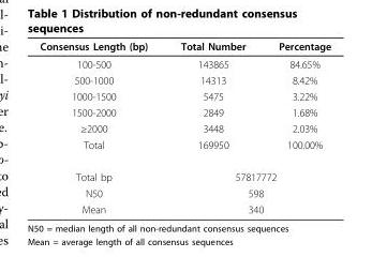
<table><thead><tr><td>Consensus Length (bp)</td><td>Total Number</td><td>Percentage</td></tr></thead><tbody><tr><td>100-500</td><td>143865</td><td>84.65%</td></tr><tr><td>500-1000</td><td>14313</td><td>8.42%</td></tr><tr><td>1000-1500</td><td>5475</td><td>3.22%</td></tr><tr><td>1500-2000</td><td>2849</td><td>1.68%</td></tr><tr><td>≥2000</td><td>3448</td><td>2.03%</td></tr><tr><td>Total</td><td>169950</td><td>100.00%</td></tr><tr><td>Total bp</td><td colspan="2">57817772</td></tr><tr><td>N50</td><td colspan="2">598</td></tr><tr><td>Mean</td><td colspan="2">340</td></tr></tbody></table>